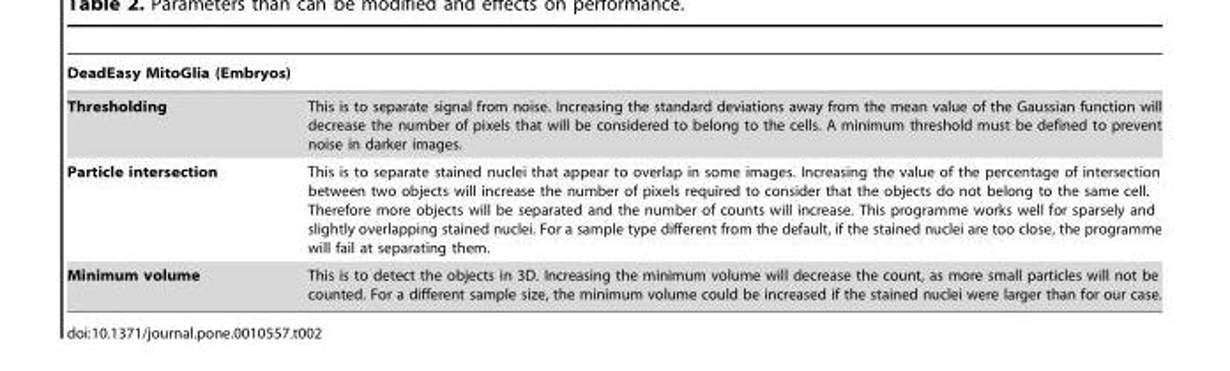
<table><thead><tr><td colspan="2">DeadEasy MitoGlia (Embryos)</td></tr><tr><td>Thresholding</td><td>This is to separate signal from noise. Increasing the standard deviations away from the mean value of the Gaussian function will decrease the number of pixels that will be considered to belong to the cells. A minimum threshold must be defined to prevent noise in darker images.</td></tr></thead><tbody><tr><td>Particle intersection</td><td>This is to separate stained nuclei that appear to overlap in some images. Increasing the value of the percentage of intersection between two objects will increase the number of pixels required to consider that the objects do not belong to the same cell. Therefore more objects will be separated and the number of counts will increase. This programme works well for sparsely and slightly overlapping stained nuclei. For a sample type different from the default, if the stained nuclei are too close, the programme will fail at separating them.</td></tr><tr><td>Minimum volume</td><td>This is to detect the objects in 3D. Increasing the minimum volume will decrease the count, as more small particles will not be counted. For a different sample size, the minimum volume could be increased if the stained nuclei were larger than for our case.</td></tr></tbody></table>